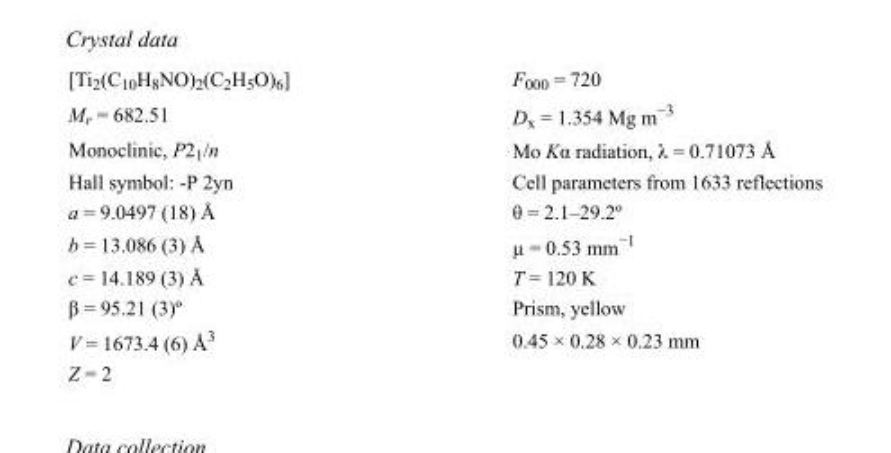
<table><tbody><tr><td>[Ti<sub>2</sub>(C<sub>10</sub>H<sub>8</sub>NO)<sub>2</sub>(C<sub>2</sub>H<sub>5</sub>O)<sub>6</sub>]</td><td>F000 = 720</td></tr><tr><td>M<sub>r</sub> = 682.51</td><td>D<sub>x</sub> = 1.354 Mg m<sup>−3</sup></td></tr><tr><td>Monoclinic, P2<sub>1</sub>/n</td><td>Mo Kα radiation, λ = 0.71073 Å</td></tr><tr><td>Hall symbol: -P 2yn</td><td>Cell parameters from 1633 reflections</td></tr><tr><td>a = 9.0497 (18) Å</td><td>θ = 2.1–29.2º</td></tr><tr><td>b = 13.086 (3) Å</td><td>µ = 0.53 mm<sup>−1</sup></td></tr><tr><td>c = 14.189 (3) Å</td><td>T = 120 K</td></tr><tr><td>β = 95.21 (3)º</td><td>Prism, yellow</td></tr><tr><td>V = 1673.4 (6) Å<sup>3</sup></td><td>0.45 × 0.28 × 0.23 mm</td></tr><tr><td>Z = 2</td><td></td></tr></tbody></table>